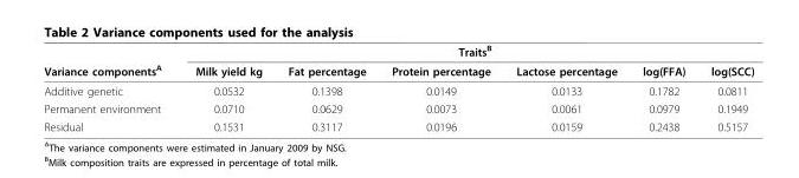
<table><thead><tr><td rowspan="2">Variance components<sup>A</sup></td><td colspan="6">Traits<sup>B</sup></td></tr><tr><td>Milk yield kg</td><td>Fat percentage</td><td>Protein percentage</td><td>Lactose percentage</td><td>log(FFA)</td><td>log(SCC)</td></tr></thead><tbody><tr><td>Additive genetic</td><td>0.0532</td><td>0.1398</td><td>0.0149</td><td>0.0133</td><td>0.1782</td><td>0.0811</td></tr><tr><td>Permanent environment</td><td>0.0710</td><td>0.0629</td><td>0.0073</td><td>0.0061</td><td>0.0979</td><td>0.1949</td></tr><tr><td>Residual</td><td>0.1531</td><td>0.3117</td><td>0.0196</td><td>0.0159</td><td>0.2438</td><td>0.5157</td></tr></tbody></table>